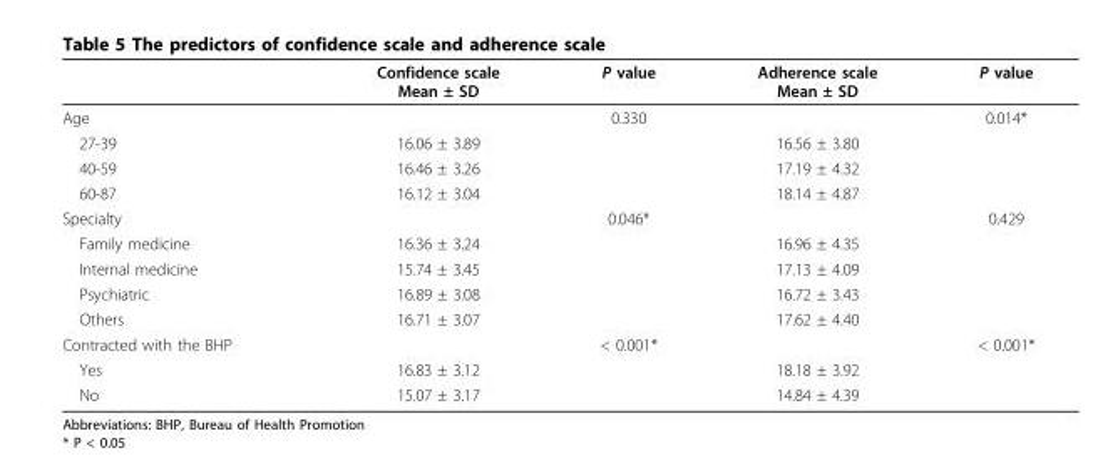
<table><thead><tr><td></td><td>Confidence scale Mean ± SD</td><td>P value</td><td>Adherence scale Mean ± SD</td><td>P value</td></tr></thead><tbody><tr><td>Age</td><td></td><td>0.330</td><td></td><td>0.014*</td></tr><tr><td>27-39</td><td>16.06 ± 3.89</td><td></td><td>16.56 ± 3.80</td><td></td></tr><tr><td>40-59</td><td>16.46 ± 3.26</td><td></td><td>17.19 ± 4.32</td><td></td></tr><tr><td>60-87</td><td>16.12 ± 3.04</td><td></td><td>18.14 ± 4.87</td><td></td></tr><tr><td>Specialty</td><td></td><td>0.046*</td><td></td><td>0.429</td></tr><tr><td>Family medicine</td><td>16.36 ± 3.24</td><td></td><td>16.96 ± 4.35</td><td></td></tr><tr><td>Internal medicine</td><td>15.74 ± 3.45</td><td></td><td>17.13 ± 4.09</td><td></td></tr><tr><td>Psychiatric</td><td>16.89 ± 3.08</td><td></td><td>16.72 ± 3.43</td><td></td></tr><tr><td>Others</td><td>16.71 ± 3.07</td><td></td><td>17.62 ± 4.40</td><td></td></tr><tr><td>Contracted with the BHP</td><td></td><td>&lt; 0.001*</td><td></td><td>&lt; 0.001*</td></tr><tr><td>Yes</td><td>16.83 ± 3.12</td><td></td><td>18.18 ± 3.92</td><td></td></tr><tr><td>No</td><td>15.07 ± 3.17</td><td></td><td>14.84 ± 4.39</td><td></td></tr></tbody></table>